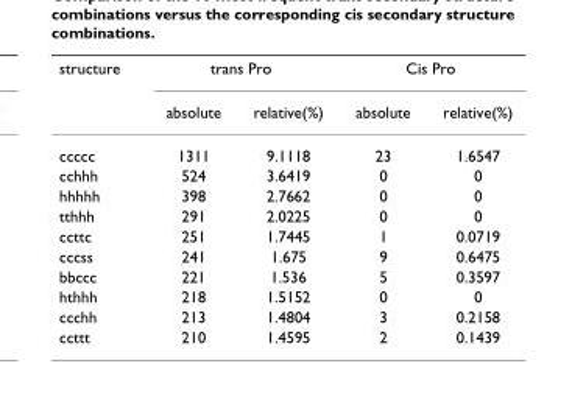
<table><thead><tr><td rowspan="2">structure</td><td colspan="2">trans Pro</td><td colspan="2">Cis Pro</td></tr><tr><td>absolute</td><td>relative(%)</td><td>absolute</td><td>relative(%)</td></tr></thead><tbody><tr><td>ccccc</td><td>1311</td><td>9.1118</td><td>23</td><td>1.6547</td></tr><tr><td>cchhh</td><td>524</td><td>3.6419</td><td>0</td><td>0</td></tr><tr><td>hhhhh</td><td>398</td><td>2.7662</td><td>0</td><td>0</td></tr><tr><td>tthhh</td><td>291</td><td>2.0225</td><td>0</td><td>0</td></tr><tr><td>ccttc</td><td>251</td><td>1.7445</td><td>1</td><td>0.0719</td></tr><tr><td>cccss</td><td>241</td><td>1.675</td><td>9</td><td>0.6475</td></tr><tr><td>bbccc</td><td>221</td><td>1.536</td><td>5</td><td>0.3597</td></tr><tr><td>hthhh</td><td>218</td><td>1.5152</td><td>0</td><td>0</td></tr><tr><td>ccchh</td><td>213</td><td>1.4804</td><td>3</td><td>0.2158</td></tr><tr><td>ccttt</td><td>210</td><td>1.4595</td><td>2</td><td>0.1439</td></tr></tbody></table>